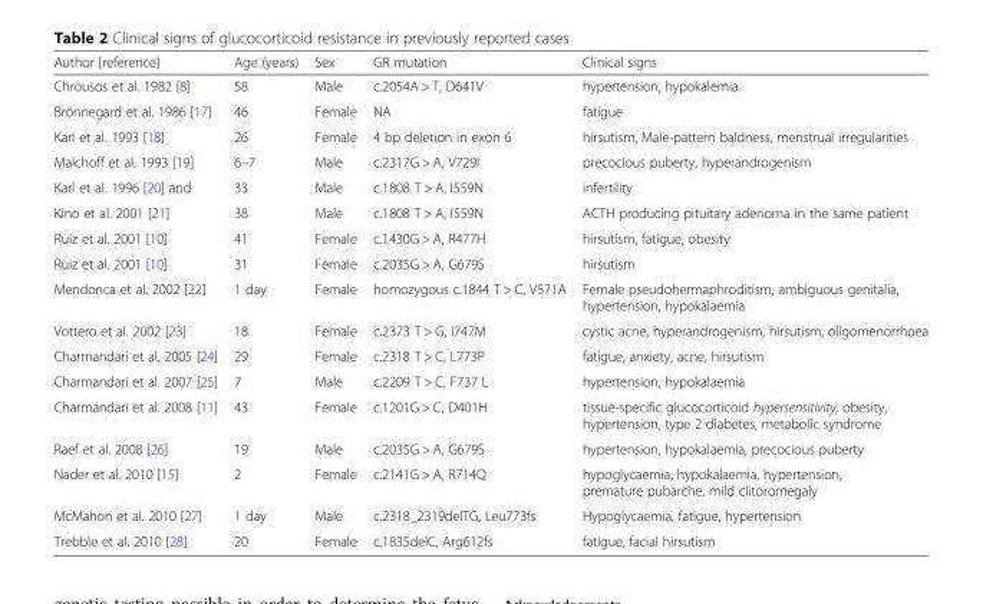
<table><thead><tr><td>Author [reference]</td><td>Age (years)</td><td>Sex</td><td>GR mutation</td><td>Clinical signs</td></tr></thead><tbody><tr><td>Chrousos et al. 1982 [8]</td><td>58</td><td>Male</td><td>c.2054A &gt; T, D641V</td><td>hypertension, hypokalemia</td></tr><tr><td>Brönnegard et al. 1986 [17]</td><td>46</td><td>Female</td><td>NA</td><td>fatigue</td></tr><tr><td>Karl et al. 1993 [18]</td><td>26</td><td>Female</td><td>4 bp deletion in exon 6</td><td>hirsutism, Male-pattern baldness, menstrual irregularities</td></tr><tr><td>Malchoff et al. 1993 [19]</td><td>6–7</td><td>Male</td><td>c.2317G &gt; A, V729I</td><td>precocious puberty, hyperandrogenism</td></tr><tr><td>Karl et al. 1996 [20] and</td><td>33</td><td>Male</td><td>c.1808 T &gt; A, I559N</td><td>infertility</td></tr><tr><td>Kino et al. 2001 [21]</td><td>38</td><td>Male</td><td>c.1808 T &gt; A, I559N</td><td>ACTH producing pituitary adenoma in the same patient</td></tr><tr><td>Ruiz et al. 2001 [10]</td><td>41</td><td>Female</td><td>c.1430G &gt; A, R477H</td><td>hirsutism, fatigue, obesity</td></tr><tr><td>Ruiz et al. 2001 [10]</td><td>31</td><td>Female</td><td>c.2035G &gt; A, G679S</td><td>hirsutism</td></tr><tr><td>Mendonca et al. 2002 [22]</td><td>1 day</td><td>Female</td><td>homozygous c.1844 T &gt; C, V571A</td><td>Female pseudohermaphroditism, ambiguous genitalia, hypertension, hypokalaemia</td></tr><tr><td>Vottero et al. 2002 [23]</td><td>18</td><td>Female</td><td>c.2373 T &gt; G, I747M</td><td>cystic acne, hyperandrogenism, hirsutism, oligomenorrhoea</td></tr><tr><td>Charmandari et al. 2005 [24]</td><td>29</td><td>Female</td><td>c.2318 T &gt; C, L773P</td><td>fatigue, anxiety, acne, hirsutism</td></tr><tr><td>Charmandari et al. 2007 [25]</td><td>7</td><td>Male</td><td>c.2209 T &gt; C, F737 L</td><td>hypertension, hypokalaemia</td></tr><tr><td>Charmandari et al. 2008 [11]</td><td>43</td><td>Female</td><td>c.1201G &gt; C, D401H</td><td>tissue-specific glucocorticoid hypersensitivity, obesity, hypertension, type 2 diabetes, metabolic syndrome</td></tr><tr><td>Raef et al. 2008 [26]</td><td>19</td><td>Male</td><td>c.2035G &gt; A, G679S</td><td>hypertension, hypokalaemia, precocious puberty</td></tr><tr><td>Nader et al. 2010 [15]</td><td>2</td><td>Female</td><td>c.2141G &gt; A, R714Q</td><td>hypoglycaemia, hypokalaemia, hypertension, premature pubarche, mild clitoromegaly</td></tr><tr><td>McMahon et al. 2010 [27]</td><td>1 day</td><td>Male</td><td>c.2318_2319delTG, Leu773fs</td><td>Hypoglycaemia, fatigue, hypertension</td></tr><tr><td>Trebble et al. 2010 [28]</td><td>20</td><td>Female</td><td>c.1835delC, Arg612fs</td><td>fatigue, facial hirsutism</td></tr></tbody></table>